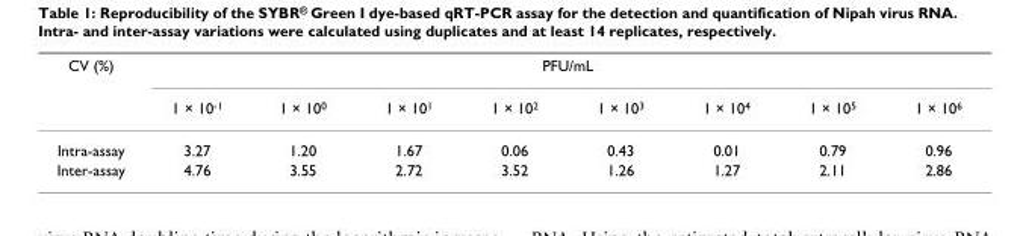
<table><thead><tr><td rowspan="2">CV (%)</td><td colspan="8">PFU/mL</td></tr><tr><td>1 × 10<sup>-1</sup></td><td>1 × 10<sup>0</sup></td><td>1 × 10<sup>1</sup></td><td>1 × 10<sup>2</sup></td><td>1 × 10<sup>3</sup></td><td>1 × 10<sup>4</sup></td><td>1 × 10<sup>5</sup></td><td>1 × 10<sup>6</sup></td></tr></thead><tbody><tr><td>Intra-assay</td><td>3.27</td><td>1.20</td><td>1.67</td><td>0.06</td><td>0.43</td><td>0.01</td><td>0.79</td><td>0.96</td></tr><tr><td>Inter-assay</td><td>4.76</td><td>3.55</td><td>2.72</td><td>3.52</td><td>1.26</td><td>1.27</td><td>2.11</td><td>2.86</td></tr></tbody></table>